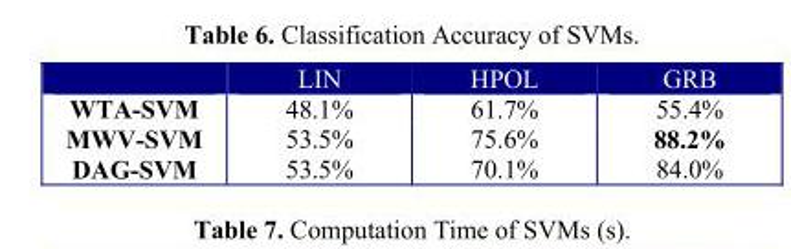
<table><thead><tr><td></td><td>LIN</td><td>HPOL</td><td>GRB</td></tr></thead><tbody><tr><td>WTA-SVM</td><td>48.1%</td><td>61.7%</td><td>55.4%</td></tr><tr><td>MWV-SVM</td><td>53.5%</td><td>75.6%</td><td>88.2%</td></tr><tr><td>DAG-SVM</td><td>53.5%</td><td>70.1%</td><td>84.0%</td></tr></tbody></table>